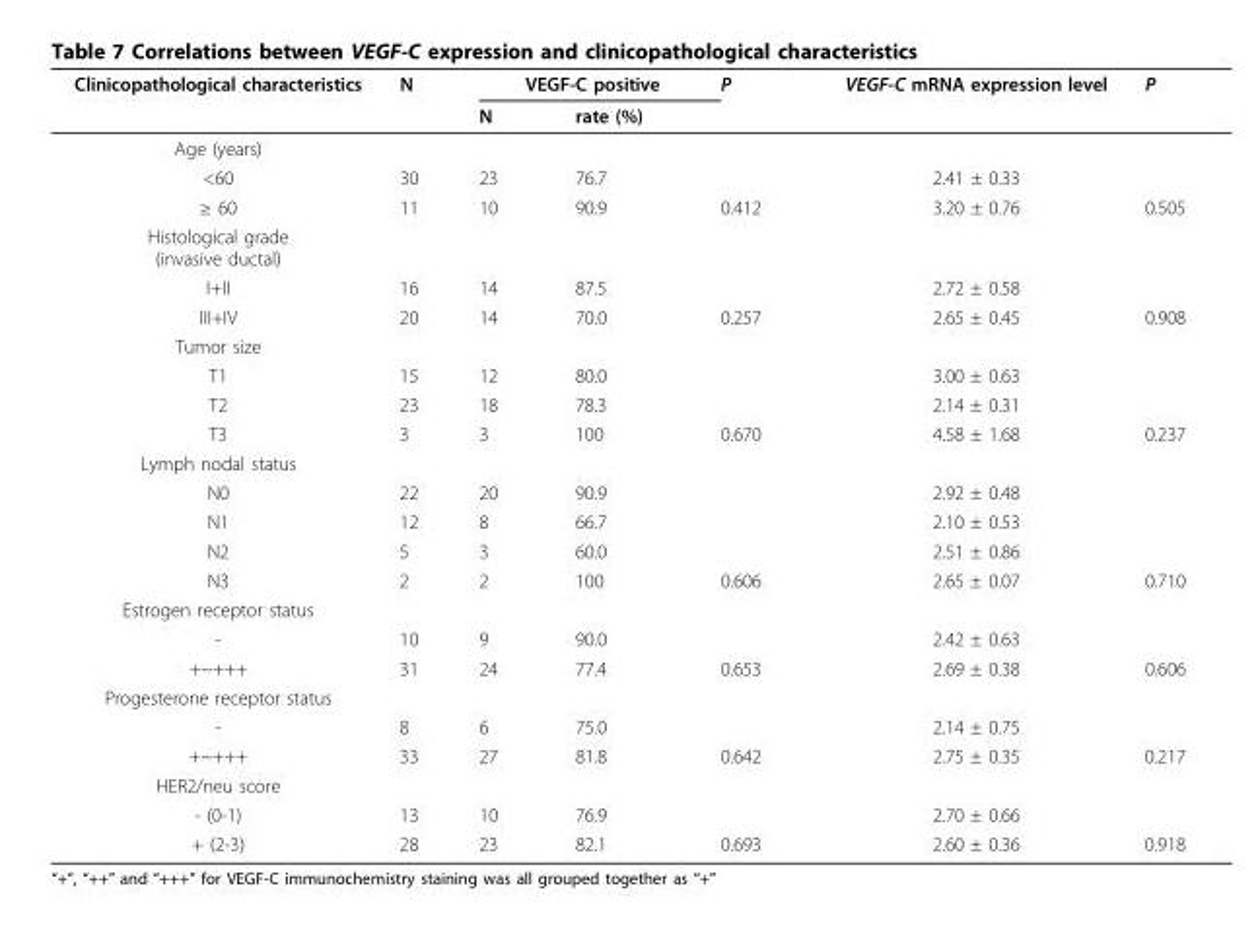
<table><thead><tr><td rowspan="2">Clinicopathological characteristics</td><td rowspan="2">N</td><td colspan="2">VEGF-C positive</td><td rowspan="2">P</td><td rowspan="2">VEGF-C mRNA expression level</td><td rowspan="2">P</td></tr><tr><td>N</td><td>rate (%)</td></tr></thead><tbody><tr><td colspan="7">Age (years)</td></tr><tr><td>&lt;60</td><td>30</td><td>23</td><td>76.7</td><td></td><td>2.41 ± 0.33</td><td></td></tr><tr><td>≥ 60</td><td>11</td><td>10</td><td>90.9</td><td>0.412</td><td>3.20 ± 0.76</td><td>0.505</td></tr><tr><td colspan="7">Histological grade (invasive ductal)</td></tr><tr><td>I+II</td><td>16</td><td>14</td><td>87.5</td><td></td><td>2.72 ± 0.58</td><td></td></tr><tr><td>III+IV</td><td>20</td><td>14</td><td>70.0</td><td>0.257</td><td>2.65 ± 0.45</td><td>0.908</td></tr><tr><td colspan="7">Tumor size</td></tr><tr><td>T1</td><td>15</td><td>12</td><td>80.0</td><td></td><td>3.00 ± 0.63</td><td></td></tr><tr><td>T2</td><td>23</td><td>18</td><td>78.3</td><td></td><td>2.14 ± 0.31</td><td></td></tr><tr><td>T3</td><td>3</td><td>3</td><td>100</td><td>0.670</td><td>4.58 ± 1.68</td><td>0.237</td></tr><tr><td colspan="7">Lymph nodal status</td></tr><tr><td>N0</td><td>22</td><td>20</td><td>90.9</td><td></td><td>2.92 ± 0.48</td><td></td></tr><tr><td>N1</td><td>12</td><td>8</td><td>66.7</td><td></td><td>2.10 ± 0.53</td><td></td></tr><tr><td>N2</td><td>5</td><td>3</td><td>60.0</td><td></td><td>2.51 ± 0.86</td><td></td></tr><tr><td>N3</td><td>2</td><td>2</td><td>100</td><td>0.606</td><td>2.65 ± 0.07</td><td>0.710</td></tr><tr><td colspan="7">Estrogen receptor status</td></tr><tr><td>-</td><td>10</td><td>9</td><td>90.0</td><td></td><td>2.42 ± 0.63</td><td></td></tr><tr><td>+~+++</td><td>31</td><td>24</td><td>77.4</td><td>0.653</td><td>2.69 ± 0.38</td><td>0.606</td></tr><tr><td colspan="7">Progesterone receptor status</td></tr><tr><td>-</td><td>8</td><td>6</td><td>75.0</td><td></td><td>2.14 ± 0.75</td><td></td></tr><tr><td>+~+++</td><td>33</td><td>27</td><td>81.8</td><td>0.642</td><td>2.75 ± 0.35</td><td>0.217</td></tr><tr><td colspan="7">HER2/neu score</td></tr><tr><td>- (0-1)</td><td>13</td><td>10</td><td>76.9</td><td></td><td>2.70 ± 0.66</td><td></td></tr><tr><td>+ (2-3)</td><td>28</td><td>23</td><td>82.1</td><td>0.693</td><td>2.60 ± 0.36</td><td>0.918</td></tr></tbody></table>